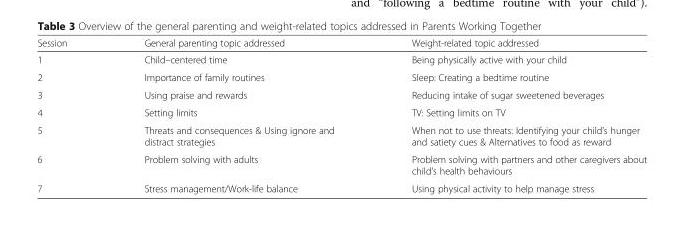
<table><thead><tr><td>Session</td><td>General parenting topic addressed</td><td>Weight-related topic addressed</td></tr></thead><tbody><tr><td>1</td><td>Child–centered time</td><td>Being physically active with your child</td></tr><tr><td>2</td><td>Importance of family routines</td><td>Sleep: Creating a bedtime routine</td></tr><tr><td>3</td><td>Using praise and rewards</td><td>Reducing intake of sugar sweetened beverages</td></tr><tr><td>4</td><td>Setting limits</td><td>TV: Setting limits on TV</td></tr><tr><td>5</td><td>Threats and consequences &amp; Using ignore and distract strategies</td><td>When not to use threats: Identifying your child’s hunger and satiety cues &amp; Alternatives to food as reward</td></tr><tr><td>6</td><td>Problem solving with adults</td><td>Problem solving with partners and other caregivers about child’s health behaviours</td></tr><tr><td>7</td><td>Stress management/Work-life balance</td><td>Using physical activity to help manage stress</td></tr></tbody></table>